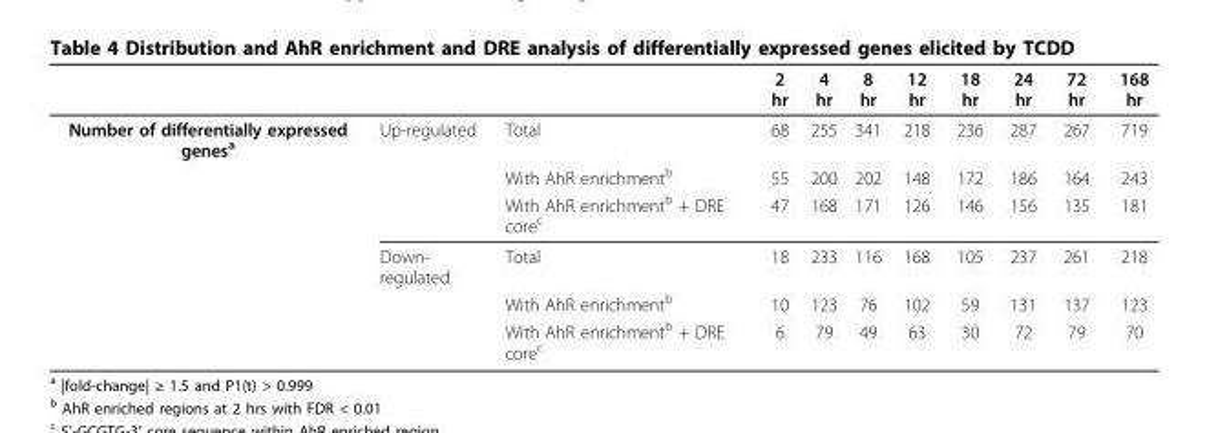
<table><thead><tr><td></td><td></td><td></td><td>2 hr</td><td>4 hr</td><td>8 hr</td><td>12 hr</td><td>18 hr</td><td>24 hr</td><td>72 hr</td><td>168 hr</td></tr></thead><tbody><tr><td rowspan="6">Number of differentially expressed genes<sup>a</sup></td><td>Up-regulated</td><td>Total</td><td>68</td><td>255</td><td>341</td><td>218</td><td>236</td><td>287</td><td>267</td><td>719</td></tr><tr><td></td><td>With AhR enrichment<sup>b</sup></td><td>55</td><td>200</td><td>202</td><td>148</td><td>172</td><td>186</td><td>164</td><td>243</td></tr><tr><td></td><td>With AhR enrichment<sup>b</sup> + DRE core<sup>c</sup></td><td>47</td><td>168</td><td>171</td><td>126</td><td>146</td><td>156</td><td>135</td><td>181</td></tr><tr><td>Down- regulated</td><td>Total</td><td>18</td><td>233</td><td>116</td><td>168</td><td>105</td><td>237</td><td>261</td><td>218</td></tr><tr><td></td><td>With AhR enrichment<sup>b</sup></td><td>10</td><td>123</td><td>76</td><td>102</td><td>59</td><td>131</td><td>137</td><td>123</td></tr><tr><td></td><td>With AhR enrichment<sup>b</sup> + DRE core<sup>c</sup></td><td>6</td><td>79</td><td>49</td><td>63</td><td>30</td><td>72</td><td>79</td><td>70</td></tr></tbody></table>